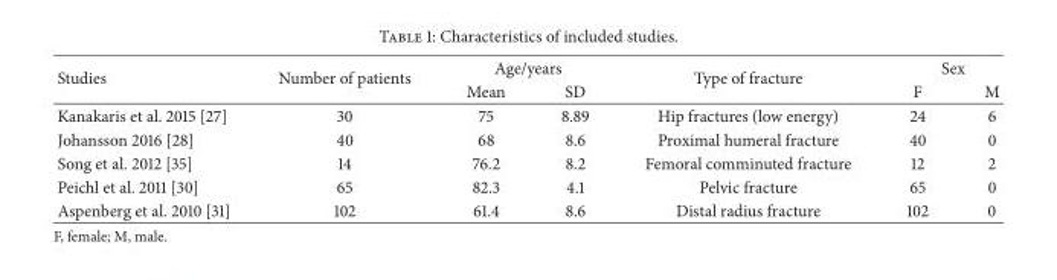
<table><thead><tr><td rowspan="2">Studies</td><td rowspan="2">Number of patients</td><td colspan="2">Age/years</td><td rowspan="2">Type of fracture</td><td colspan="2">Sex</td></tr><tr><td>Mean</td><td>SD</td><td>F</td><td>M</td></tr></thead><tbody><tr><td>Kanakaris et al. 2015 [27]</td><td>30</td><td>75</td><td>8.89</td><td>Hip fractures (low energy)</td><td>24</td><td>6</td></tr><tr><td>Johansson 2016 [28]</td><td>40</td><td>68</td><td>8.6</td><td>Proximal humeral fracture</td><td>40</td><td>0</td></tr><tr><td>Song et al. 2012 [35]</td><td>14</td><td>76.2</td><td>8.2</td><td>Femoral comminuted fracture</td><td>12</td><td>2</td></tr><tr><td>Peichl et al. 2011 [30]</td><td>65</td><td>82.3</td><td>4.1</td><td>Pelvic fracture</td><td>65</td><td>0</td></tr><tr><td>Aspenberg et al. 2010 [31]</td><td>102</td><td>61.4</td><td>8.6</td><td>Distal radius fracture</td><td>102</td><td>0</td></tr></tbody></table>